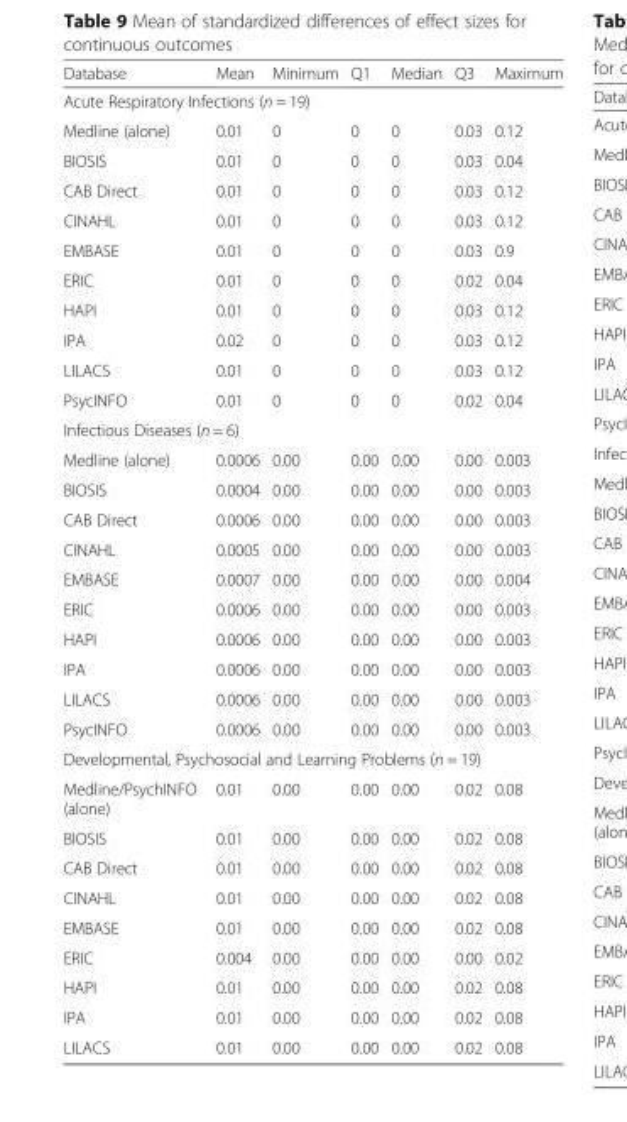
<table><thead><tr><td>Database</td><td>Mean</td><td>Minimum</td><td>Q1</td><td>Median</td><td>Q3</td><td>Maximum</td></tr></thead><tbody><tr><td colspan="7">Acute Respiratory Infections (n = 19)</td></tr><tr><td>Medline (alone)</td><td>0.01</td><td>0</td><td>0</td><td>0</td><td>0.03</td><td>0.12</td></tr><tr><td>BIOSIS</td><td>0.01</td><td>0</td><td>0</td><td>0</td><td>0.03</td><td>0.04</td></tr><tr><td>CAB Direct</td><td>0.01</td><td>0</td><td>0</td><td>0</td><td>0.03</td><td>0.12</td></tr><tr><td>CINAHL</td><td>0.01</td><td>0</td><td>0</td><td>0</td><td>0.03</td><td>0.12</td></tr><tr><td>EMBASE</td><td>0.01</td><td>0</td><td>0</td><td>0</td><td>0.03</td><td>0.9</td></tr><tr><td>ERIC</td><td>0.01</td><td>0</td><td>0</td><td>0</td><td>0.02</td><td>0.04</td></tr><tr><td>HAPI</td><td>0.01</td><td>0</td><td>0</td><td>0</td><td>0.03</td><td>0.12</td></tr><tr><td>IPA</td><td>0.02</td><td>0</td><td>0</td><td>0</td><td>0.03</td><td>0.12</td></tr><tr><td>LILACS</td><td>0.01</td><td>0</td><td>0</td><td>0</td><td>0.03</td><td>0.12</td></tr><tr><td>PsycINFO</td><td>0.01</td><td>0</td><td>0</td><td>0</td><td>0.02</td><td>0.04</td></tr><tr><td colspan="7">Infectious Diseases (n = 6)</td></tr><tr><td>Medline (alone)</td><td>0.0006</td><td>0.00</td><td>0.00</td><td>0.00</td><td>0.00</td><td>0.003</td></tr><tr><td>BIOSIS</td><td>0.0004</td><td>0.00</td><td>0.00</td><td>0.00</td><td>0.00</td><td>0.003</td></tr><tr><td>CAB Direct</td><td>0.0006</td><td>0.00</td><td>0.00</td><td>0.00</td><td>0.00</td><td>0.003</td></tr><tr><td>CINAHL</td><td>0.0005</td><td>0.00</td><td>0.00</td><td>0.00</td><td>0.00</td><td>0.003</td></tr><tr><td>EMBASE</td><td>0.0007</td><td>0.00</td><td>0.00</td><td>0.00</td><td>0.00</td><td>0.004</td></tr><tr><td>ERIC</td><td>0.0006</td><td>0.00</td><td>0.00</td><td>0.00</td><td>0.00</td><td>0.003</td></tr><tr><td>HAPI</td><td>0.0006</td><td>0.00</td><td>0.00</td><td>0.00</td><td>0.00</td><td>0.003</td></tr><tr><td>IPA</td><td>0.0006</td><td>0.00</td><td>0.00</td><td>0.00</td><td>0.00</td><td>0.003</td></tr><tr><td>LILACS</td><td>0.0006</td><td>0.00</td><td>0.00</td><td>0.00</td><td>0.00</td><td>0.003</td></tr><tr><td>PsycINFO</td><td>0.0006</td><td>0.00</td><td>0.00</td><td>0.00</td><td>0.00</td><td>0.003</td></tr><tr><td colspan="7">Developmental, Psychosocial and Learning Problems (n = 19)</td></tr><tr><td>Medline/PsychINFO (alone)</td><td>0.01</td><td>0.00</td><td>0.00</td><td>0.00</td><td>0.02</td><td>0.08</td></tr><tr><td>BIOSIS</td><td>0.01</td><td>0.00</td><td>0.00</td><td>0.00</td><td>0.02</td><td>0.08</td></tr><tr><td>CAB Direct</td><td>0.01</td><td>0.00</td><td>0.00</td><td>0.00</td><td>0.02</td><td>0.08</td></tr><tr><td>CINAHL</td><td>0.01</td><td>0.00</td><td>0.00</td><td>0.00</td><td>0.02</td><td>0.08</td></tr><tr><td>EMBASE</td><td>0.01</td><td>0.00</td><td>0.00</td><td>0.00</td><td>0.02</td><td>0.08</td></tr><tr><td>ERIC</td><td>0.004</td><td>0.00</td><td>0.00</td><td>0.00</td><td>0.00</td><td>0.02</td></tr><tr><td>HAPI</td><td>0.01</td><td>0.00</td><td>0.00</td><td>0.00</td><td>0.02</td><td>0.08</td></tr><tr><td>IPA</td><td>0.01</td><td>0.00</td><td>0.00</td><td>0.00</td><td>0.02</td><td>0.08</td></tr><tr><td>LILACS</td><td>0.01</td><td>0.00</td><td>0.00</td><td>0.00</td><td>0.02</td><td>0.08</td></tr></tbody></table>